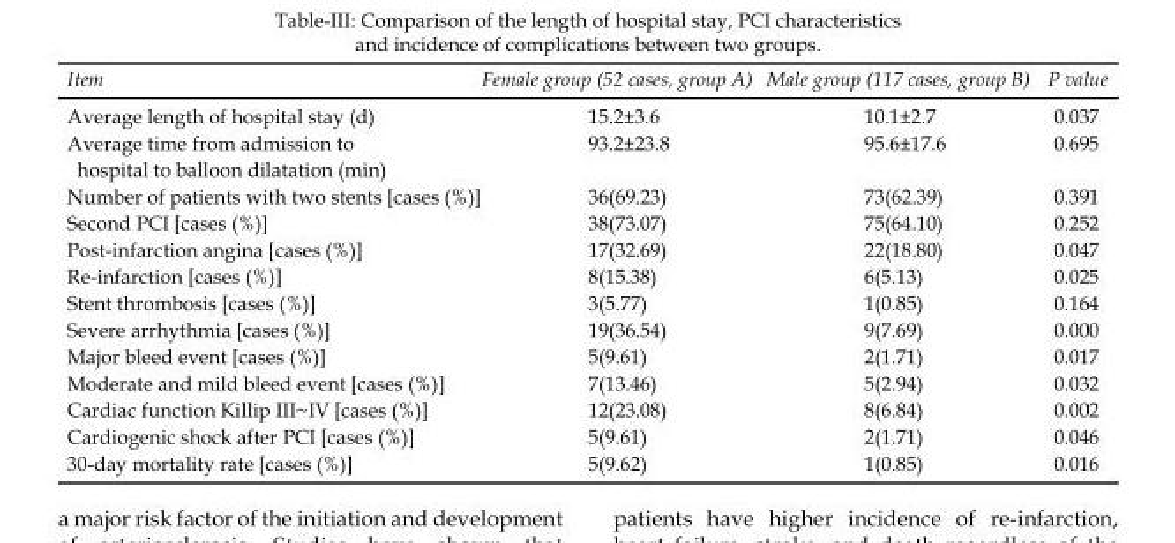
<table><thead><tr><td>Item</td><td>Female group (52 cases, group A)</td><td>Male group (117 cases, group B)</td><td>P value</td></tr></thead><tbody><tr><td>Average length of hospital stay (d)</td><td>15.2±3.6</td><td>10.1±2.7</td><td>0.037</td></tr><tr><td>Average time from admission to hospital to balloon dilatation (min)</td><td>93.2±23.8</td><td>95.6±17.6</td><td>0.695</td></tr><tr><td>Number of patients with two stents [cases (%)]</td><td>36(69.23)</td><td>73(62.39)</td><td>0.391</td></tr><tr><td>Second PCI [cases (%)]</td><td>38(73.07)</td><td>75(64.10)</td><td>0.252</td></tr><tr><td>Post-infarction angina [cases (%)]</td><td>17(32.69)</td><td>22(18.80)</td><td>0.047</td></tr><tr><td>Re-infarction [cases (%)]</td><td>8(15.38)</td><td>6(5.13)</td><td>0.025</td></tr><tr><td>Stent thrombosis [cases (%)]</td><td>3(5.77)</td><td>1(0.85)</td><td>0.164</td></tr><tr><td>Severe arrhythmia [cases (%)]</td><td>19(36.54)</td><td>9(7.69)</td><td>0.000</td></tr><tr><td>Major bleed event [cases (%)]</td><td>5(9.61)</td><td>2(1.71)</td><td>0.017</td></tr><tr><td>Moderate and mild bleed event [cases (%)]</td><td>7(13.46)</td><td>5(2.94)</td><td>0.032</td></tr><tr><td>Cardiac function Killip III~IV [cases (%)]</td><td>12(23.08)</td><td>8(6.84)</td><td>0.002</td></tr><tr><td>Cardiogenic shock after PCI [cases (%)]</td><td>5(9.61)</td><td>2(1.71)</td><td>0.046</td></tr><tr><td>30-day mortality rate [cases (%)]</td><td>5(9.62)</td><td>1(0.85)</td><td>0.016</td></tr></tbody></table>